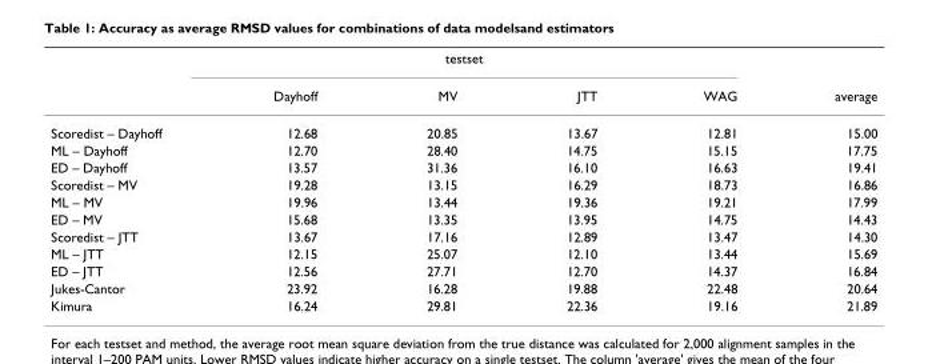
<table><thead><tr><td rowspan="2"></td><td colspan="4">testset</td><td rowspan="2">average</td></tr><tr><td>Dayhoff</td><td>MV</td><td>JTT</td><td>WAG</td></tr></thead><tbody><tr><td>Scoredist – Dayhoff</td><td>12.68</td><td>20.85</td><td>13.67</td><td>12.81</td><td>15.00</td></tr><tr><td>ML – Dayhoff</td><td>12.70</td><td>28.40</td><td>14.75</td><td>15.15</td><td>17.75</td></tr><tr><td>ED – Dayhoff</td><td>13.57</td><td>31.36</td><td>16.10</td><td>16.63</td><td>19.41</td></tr><tr><td>Scoredist – MV</td><td>19.28</td><td>13.15</td><td>16.29</td><td>18.73</td><td>16.86</td></tr><tr><td>ML – MV</td><td>19.96</td><td>13.44</td><td>19.36</td><td>19.21</td><td>17.99</td></tr><tr><td>ED – MV</td><td>15.68</td><td>13.35</td><td>13.95</td><td>14.75</td><td>14.43</td></tr><tr><td>Scoredist – JTT</td><td>13.67</td><td>17.16</td><td>12.89</td><td>13.47</td><td>14.30</td></tr><tr><td>ML – JTT</td><td>12.15</td><td>25.07</td><td>12.10</td><td>13.44</td><td>15.69</td></tr><tr><td>ED – JTT</td><td>12.56</td><td>27.71</td><td>12.70</td><td>14.37</td><td>16.84</td></tr><tr><td>Jukes-Cantor</td><td>23.92</td><td>16.28</td><td>19.88</td><td>22.48</td><td>20.64</td></tr><tr><td>Kimura</td><td>16.24</td><td>29.81</td><td>22.36</td><td>19.16</td><td>21.89</td></tr></tbody></table>